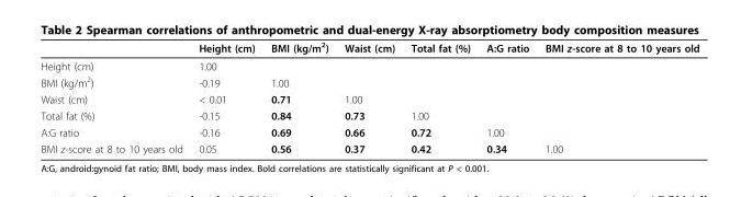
<table><thead><tr><td></td><td>Height (cm)</td><td>BMI (kg/m<sup>2</sup>)</td><td>Waist (cm)</td><td>Total fat (%)</td><td>A:G ratio</td><td>BMI z-score at 8 to 10 years old</td></tr></thead><tbody><tr><td>Height (cm)</td><td>1.00</td><td></td><td></td><td></td><td></td><td></td></tr><tr><td>BMI (kg/m<sup>2</sup>)</td><td>-0.19</td><td>1.00</td><td></td><td></td><td></td><td></td></tr><tr><td>Waist (cm)</td><td>&lt; 0.01</td><td>0.71</td><td>1.00</td><td></td><td></td><td></td></tr><tr><td>Total fat (%)</td><td>-0.15</td><td>0.84</td><td>0.73</td><td>1.00</td><td></td><td></td></tr><tr><td>A:G ratio</td><td>-0.16</td><td>0.69</td><td>0.66</td><td>0.72</td><td>1.00</td><td></td></tr><tr><td>BMI z-score at 8 to 10 years old</td><td>0.05</td><td>0.56</td><td>0.37</td><td>0.42</td><td>0.34</td><td>1.00</td></tr></tbody></table>